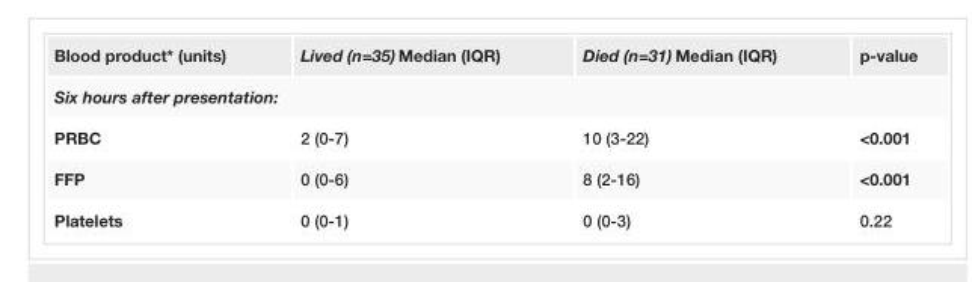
<table><tbody><tr><td>Blood product* (units)</td><td>Lived (n=35) Median (IQR)</td><td>Died (n=31) Median (IQR)</td><td>p-value</td></tr><tr><td colspan="4">Six hours after presentation:</td></tr><tr><td>PRBC</td><td>2 (0-7)</td><td>10 (3-22)</td><td>&lt;0.001</td></tr><tr><td>FFP</td><td>0 (0-6)</td><td>8 (2-16)</td><td>&lt;0.001</td></tr><tr><td>Platelets</td><td>0 (0-1)</td><td>0 (0-3)</td><td>0.22</td></tr></tbody></table>